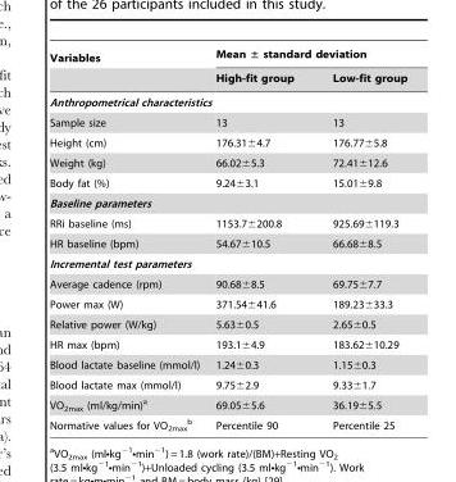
<table><thead><tr><td rowspan="2">Variables</td><td colspan="2">Mean ± standard deviation</td></tr><tr><td>High-fit group</td><td>Low-fit group</td></tr></thead><tbody><tr><td colspan="3">Anthropometrical characteristics</td></tr><tr><td>Sample size</td><td>13</td><td>13</td></tr><tr><td>Height (cm)</td><td>176.31±4.7</td><td>176.77±5.8</td></tr><tr><td>Weight (kg)</td><td>66.02±5.3</td><td>72.41±12.6</td></tr><tr><td>Body fat (%)</td><td>9.24±3.1</td><td>15.01±9.8</td></tr><tr><td colspan="3">Baseline parameters</td></tr><tr><td>RRi baseline (ms)</td><td>1153.7±200.8</td><td>925.69±119.3</td></tr><tr><td>HR baseline (bpm)</td><td>54.67±10.5</td><td>66.68±8.5</td></tr><tr><td colspan="3">Incremental test parameters</td></tr><tr><td>Average cadence (rpm)</td><td>90.68±8.5</td><td>69.75±7.7</td></tr><tr><td>Power max (W)</td><td>371.54±41.6</td><td>189.23±33.3</td></tr><tr><td>Relative power (W/kg)</td><td>5.63±0.5</td><td>2.65±0.5</td></tr><tr><td>HR max (bpm)</td><td>193.1±4.9</td><td>183.62±10.29</td></tr><tr><td>Blood lactate baseline (mmol/l)</td><td>1.24±0.3</td><td>1.15±0.3</td></tr><tr><td>Blood lactate max (mmol/l)</td><td>9.75±2.9</td><td>9.33±1.7</td></tr><tr><td>VO<sub>2max</sub> (ml/kg/min)<sup>a</sup></td><td>69.05±5.6</td><td>36.19±5.5</td></tr><tr><td>Normative values for VO<sub>2max</sub> b</td><td>Percentile 90</td><td>Percentile 25</td></tr></tbody></table>